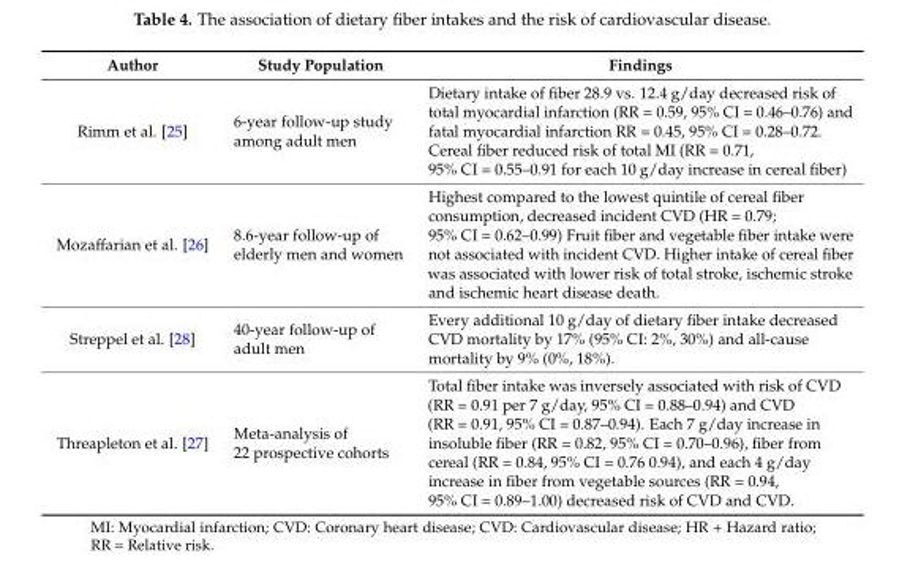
<table><thead><tr><td>Author</td><td>Study Population</td><td>Findings</td></tr></thead><tbody><tr><td>Rimm et al. [25]</td><td>6-year follow-up study among adult men</td><td>Dietary intake of fiber 28.9 vs. 12.4 g/day decreased risk of total myocardial infarction (RR = 0.59, 95% CI = 0.46–0.76) and fatal myocardial infarction RR = 0.45, 95% CI = 0.28–0.72. Cereal fiber reduced risk of total MI (RR = 0.71, 95% CI = 0.55–0.91 for each 10 g/day increase in cereal fiber)</td></tr><tr><td>Mozaffarian et al. [26]</td><td>8.6-year follow-up of elderly men and women</td><td>Highest compared to the lowest quintile of cereal fiber consumption, decreased incident CVD (HR = 0.79; 95% CI = 0.62–0.99) Fruit fiber and vegetable fiber intake were not associated with incident CVD. Higher intake of cereal fiber was associated with lower risk of total stroke, ischemic stroke and ischemic heart disease death.</td></tr><tr><td>Streppel et al. [28]</td><td>40-year follow-up of adult men</td><td>Every additional 10 g/day of dietary fiber intake decreased CVD mortality by 17% (95% CI: 2%, 30%) and all-cause mortality by 9% (0%, 18%).</td></tr><tr><td>Threapleton et al. [27]</td><td>Meta-analysis of 22 prospective cohorts</td><td>Total fiber intake was inversely associated with risk of CVD (RR = 0.91 per 7 g/day, 95% CI = 0.88–0.94) and CVD (RR = 0.91, 95% CI = 0.87–0.94). Each 7 g/day increase in insoluble fiber (RR = 0.82, 95% CI = 0.70–0.96), fiber from cereal (RR = 0.84, 95% CI = 0.76 0.94), and each 4 g/day increase in fiber from vegetable sources (RR = 0.94, 95% CI = 0.89–1.00) decreased risk of CVD and CVD.</td></tr></tbody></table>